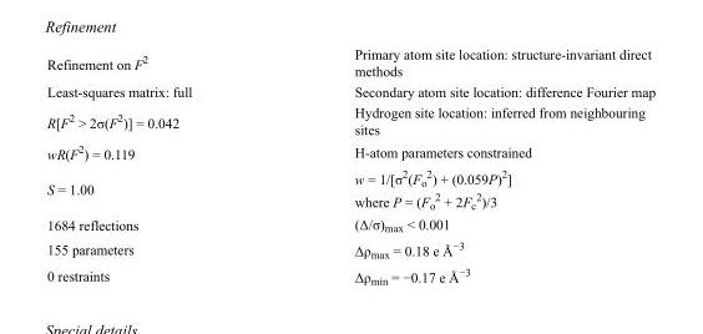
<table><tbody><tr><td>Refinement on F<sup>2</sup></td><td>Primary atom site location: structure-invariant direct methods</td></tr><tr><td>Least-squares matrix: full</td><td>Secondary atom site location: difference Fourier map</td></tr><tr><td>R[F<sup>2</sup> &gt; 2σ(F<sup>2</sup>)] = 0.042</td><td>Hydrogen site location: inferred from neighbouring sites</td></tr><tr><td>wR(F<sup>2</sup>) = 0.119</td><td>H-atom parameters constrained</td></tr><tr><td>S = 1.00</td><td>w = 1/[σ<sup>2</sup>(F<sub>o</sub> <sup>2</sup>) + (0.059P)<sup>2</sup>] where P = (F<sub>o</sub> <sup>2</sup> + 2F<sub>c</sub> <sup>2</sup>)/3</td></tr><tr><td>1684 reflections</td><td>(Δ/σ)<sub>max</sub> &lt; 0.001</td></tr><tr><td>155 parameters</td><td>Δρ<sub>max</sub> = 0.18 e Å<sup>−3</sup></td></tr><tr><td>0 restraints</td><td>Δρ<sub>min</sub> = −0.17 e Å<sup>−3</sup></td></tr></tbody></table>